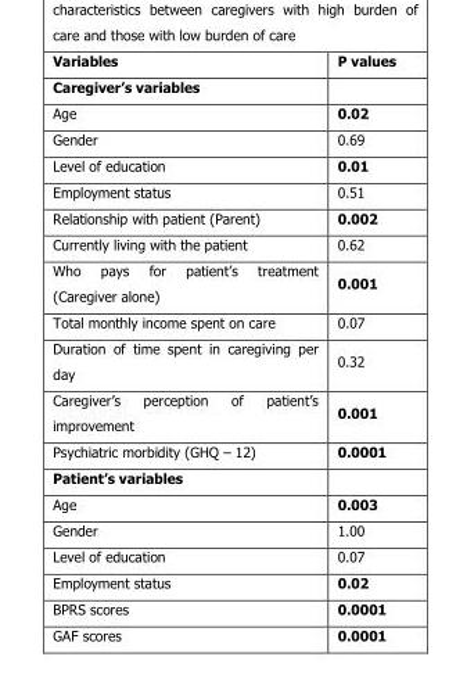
<table><thead><tr><td>Variables</td><td>P values</td></tr></thead><tbody><tr><td colspan="2">Caregiver’s variables</td></tr><tr><td>Age</td><td>0.02</td></tr><tr><td>Gender</td><td>0.69</td></tr><tr><td>Level of education</td><td>0.01</td></tr><tr><td>Employment status</td><td>0.51</td></tr><tr><td>Relationship with patient (Parent)</td><td>0.002</td></tr><tr><td>Currently living with the patient</td><td>0.62</td></tr><tr><td>Who pays for patient’s treatment (Caregiver alone)</td><td>0.001</td></tr><tr><td>Total monthly income spent on care</td><td>0.07</td></tr><tr><td>Duration of time spent in caregiving per day</td><td>0.32</td></tr><tr><td>Caregiver’s perception of patient’s improvement</td><td>0.001</td></tr><tr><td>Psychiatric morbidity (GHQ – 12)</td><td>0.0001</td></tr><tr><td colspan="2">Patient’s variables</td></tr><tr><td>Age</td><td>0.003</td></tr><tr><td>Gender</td><td>1.00</td></tr><tr><td>Level of education</td><td>0.07</td></tr><tr><td>Employment status</td><td>0.02</td></tr><tr><td>BPRS scores</td><td>0.0001</td></tr><tr><td>GAF scores</td><td>0.0001</td></tr></tbody></table>